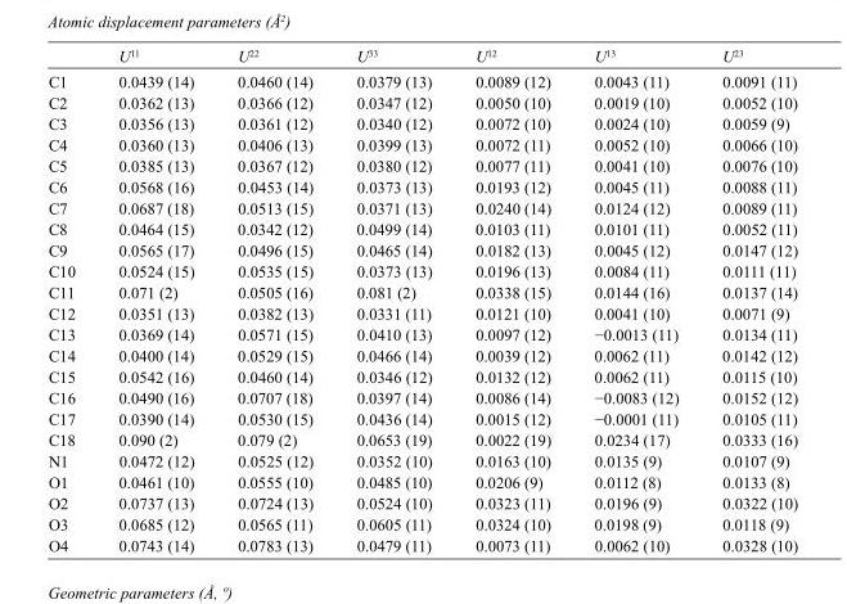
<table><thead><tr><td></td><td>U<sup>11</sup></td><td>U<sup>22</sup></td><td>U<sup>33</sup></td><td>U<sup>12</sup></td><td>U<sup>13</sup></td><td>U<sup>23</sup></td></tr></thead><tbody><tr><td>C1</td><td>0.0439 (14)</td><td>0.0460 (14)</td><td>0.0379 (13)</td><td>0.0089 (12)</td><td>0.0043 (11)</td><td>0.0091 (11)</td></tr><tr><td>C2</td><td>0.0362 (13)</td><td>0.0366 (12)</td><td>0.0347 (12)</td><td>0.0050 (10)</td><td>0.0019 (10)</td><td>0.0052 (10)</td></tr><tr><td>C3</td><td>0.0356 (13)</td><td>0.0361 (12)</td><td>0.0340 (12)</td><td>0.0072 (10)</td><td>0.0024 (10)</td><td>0.0059 (9)</td></tr><tr><td>C4</td><td>0.0360 (13)</td><td>0.0406 (13)</td><td>0.0399 (13)</td><td>0.0072 (11)</td><td>0.0052 (10)</td><td>0.0066 (10)</td></tr><tr><td>C5</td><td>0.0385 (13)</td><td>0.0367 (12)</td><td>0.0380 (12)</td><td>0.0077 (11)</td><td>0.0041 (10)</td><td>0.0076 (10)</td></tr><tr><td>C6</td><td>0.0568 (16)</td><td>0.0453 (14)</td><td>0.0373 (13)</td><td>0.0193 (12)</td><td>0.0045 (11)</td><td>0.0088 (11)</td></tr><tr><td>C7</td><td>0.0687 (18)</td><td>0.0513 (15)</td><td>0.0371 (13)</td><td>0.0240 (14)</td><td>0.0124 (12)</td><td>0.0089 (11)</td></tr><tr><td>C8</td><td>0.0464 (15)</td><td>0.0342 (12)</td><td>0.0499 (14)</td><td>0.0103 (11)</td><td>0.0101 (11)</td><td>0.0052 (11)</td></tr><tr><td>C9</td><td>0.0565 (17)</td><td>0.0496 (15)</td><td>0.0465 (14)</td><td>0.0182 (13)</td><td>0.0045 (12)</td><td>0.0147 (12)</td></tr><tr><td>C10</td><td>0.0524 (15)</td><td>0.0535 (15)</td><td>0.0373 (13)</td><td>0.0196 (13)</td><td>0.0084 (11)</td><td>0.0111 (11)</td></tr><tr><td>C11</td><td>0.071 (2)</td><td>0.0505 (16)</td><td>0.081 (2)</td><td>0.0338 (15)</td><td>0.0144 (16)</td><td>0.0137 (14)</td></tr><tr><td>C12</td><td>0.0351 (13)</td><td>0.0382 (13)</td><td>0.0331 (11)</td><td>0.0121 (10)</td><td>0.0041 (10)</td><td>0.0071 (9)</td></tr><tr><td>C13</td><td>0.0369 (14)</td><td>0.0571 (15)</td><td>0.0410 (13)</td><td>0.0097 (12)</td><td>−0.0013 (11)</td><td>0.0134 (11)</td></tr><tr><td>C14</td><td>0.0400 (14)</td><td>0.0529 (15)</td><td>0.0466 (14)</td><td>0.0039 (12)</td><td>0.0062 (11)</td><td>0.0142 (12)</td></tr><tr><td>C15</td><td>0.0542 (16)</td><td>0.0460 (14)</td><td>0.0346 (12)</td><td>0.0132 (12)</td><td>0.0062 (11)</td><td>0.0115 (10)</td></tr><tr><td>C16</td><td>0.0490 (16)</td><td>0.0707 (18)</td><td>0.0397 (14)</td><td>0.0086 (14)</td><td>−0.0083 (12)</td><td>0.0152 (12)</td></tr><tr><td>C17</td><td>0.0390 (14)</td><td>0.0530 (15)</td><td>0.0436 (14)</td><td>0.0015 (12)</td><td>−0.0001 (11)</td><td>0.0105 (11)</td></tr><tr><td>C18</td><td>0.090 (2)</td><td>0.079 (2)</td><td>0.0653 (19)</td><td>0.0022 (19)</td><td>0.0234 (17)</td><td>0.0333 (16)</td></tr><tr><td>N1</td><td>0.0472 (12)</td><td>0.0525 (12)</td><td>0.0352 (10)</td><td>0.0163 (10)</td><td>0.0135 (9)</td><td>0.0107 (9)</td></tr><tr><td>O1</td><td>0.0461 (10)</td><td>0.0555 (10)</td><td>0.0485 (10)</td><td>0.0206 (9)</td><td>0.0112 (8)</td><td>0.0133 (8)</td></tr><tr><td>O2</td><td>0.0737 (13)</td><td>0.0724 (13)</td><td>0.0524 (10)</td><td>0.0323 (11)</td><td>0.0196 (9)</td><td>0.0322 (10)</td></tr><tr><td>O3</td><td>0.0685 (12)</td><td>0.0565 (11)</td><td>0.0605 (11)</td><td>0.0324 (10)</td><td>0.0198 (9)</td><td>0.0118 (9)</td></tr><tr><td>O4</td><td>0.0743 (14)</td><td>0.0783 (13)</td><td>0.0479 (11)</td><td>0.0073 (11)</td><td>0.0062 (10)</td><td>0.0328 (10)</td></tr></tbody></table>